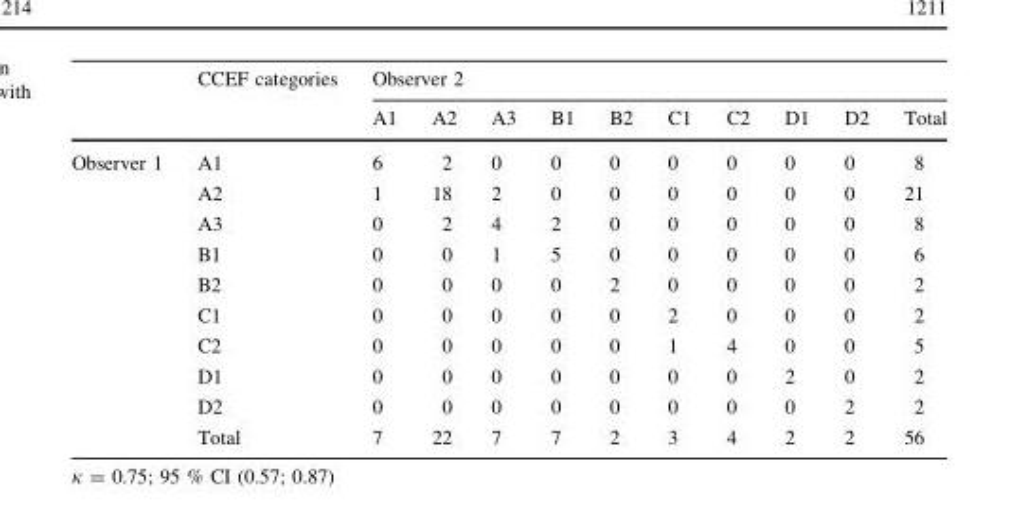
<table><thead><tr><td rowspan="2"></td><td rowspan="2">CCEF categories</td><td colspan="10">Observer 2</td></tr><tr><td>A1</td><td>A2</td><td>A3</td><td>B1</td><td>B2</td><td>C1</td><td>C2</td><td>D1</td><td>D2</td><td>Total</td></tr></thead><tbody><tr><td rowspan="10">Observer 1</td><td>A1</td><td>6</td><td>2</td><td>0</td><td>0</td><td>0</td><td>0</td><td>0</td><td>0</td><td>0</td><td>8</td></tr><tr><td>A2</td><td>1</td><td>18</td><td>2</td><td>0</td><td>0</td><td>0</td><td>0</td><td>0</td><td>0</td><td>21</td></tr><tr><td>A3</td><td>0</td><td>2</td><td>4</td><td>2</td><td>0</td><td>0</td><td>0</td><td>0</td><td>0</td><td>8</td></tr><tr><td>B1</td><td>0</td><td>0</td><td>1</td><td>5</td><td>0</td><td>0</td><td>0</td><td>0</td><td>0</td><td>6</td></tr><tr><td>B2</td><td>0</td><td>0</td><td>0</td><td>0</td><td>2</td><td>0</td><td>0</td><td>0</td><td>0</td><td>2</td></tr><tr><td>C1</td><td>0</td><td>0</td><td>0</td><td>0</td><td>0</td><td>2</td><td>0</td><td>0</td><td>0</td><td>2</td></tr><tr><td>C2</td><td>0</td><td>0</td><td>0</td><td>0</td><td>0</td><td>1</td><td>4</td><td>0</td><td>0</td><td>5</td></tr><tr><td>D1</td><td>0</td><td>0</td><td>0</td><td>0</td><td>0</td><td>0</td><td>0</td><td>2</td><td>0</td><td>2</td></tr><tr><td>D2</td><td>0</td><td>0</td><td>0</td><td>0</td><td>0</td><td>0</td><td>0</td><td>0</td><td>2</td><td>2</td></tr><tr><td>Total</td><td>7</td><td>22</td><td>7</td><td>7</td><td>2</td><td>3</td><td>4</td><td>2</td><td>2</td><td>56</td></tr></tbody></table>